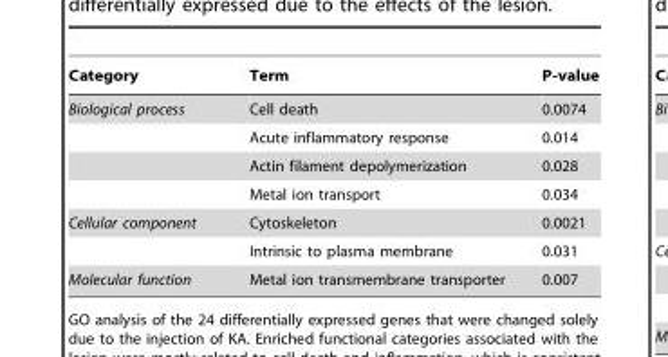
<table><thead><tr><td>Category</td><td>Term</td><td>P-value</td></tr></thead><tbody><tr><td rowspan="4">Biological process</td><td>Cell death</td><td>0.0074</td></tr><tr><td>Acute inflammatory response</td><td>0.014</td></tr><tr><td>Actin filament depolymerization</td><td>0.028</td></tr><tr><td>Metal ion transport</td><td>0.034</td></tr><tr><td rowspan="2">Cellular component</td><td>Cytoskeleton</td><td>0.0021</td></tr><tr><td>Intrinsic to plasma membrane</td><td>0.031</td></tr><tr><td>Molecular function</td><td>Metal ion transmembrane transporter</td><td>0.007</td></tr></tbody></table>